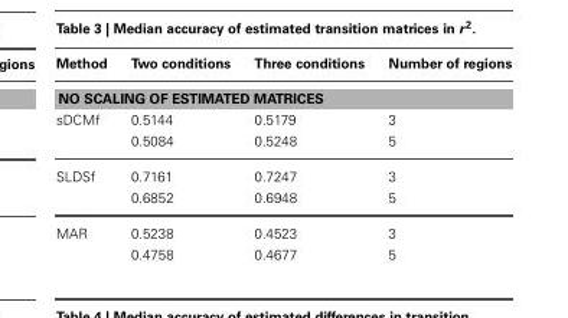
<table><thead><tr><td>Method</td><td>Two conditions</td><td>Three conditions</td><td>Number of regions</td></tr></thead><tbody><tr><td colspan="4">NO SCALING OF ESTIMATED MATRICES</td></tr><tr><td rowspan="2">sDCMf</td><td>0.5144</td><td>0.5179</td><td>3</td></tr><tr><td>0.5084</td><td>0.5248</td><td>5</td></tr><tr><td rowspan="2">SLDSf</td><td>0.7161</td><td>0.7247</td><td>3</td></tr><tr><td>0.6852</td><td>0.6948</td><td>5</td></tr><tr><td rowspan="2">MAR</td><td>0.5238</td><td>0.4523</td><td>3</td></tr><tr><td>0.4758</td><td>0.4677</td><td>5</td></tr></tbody></table>